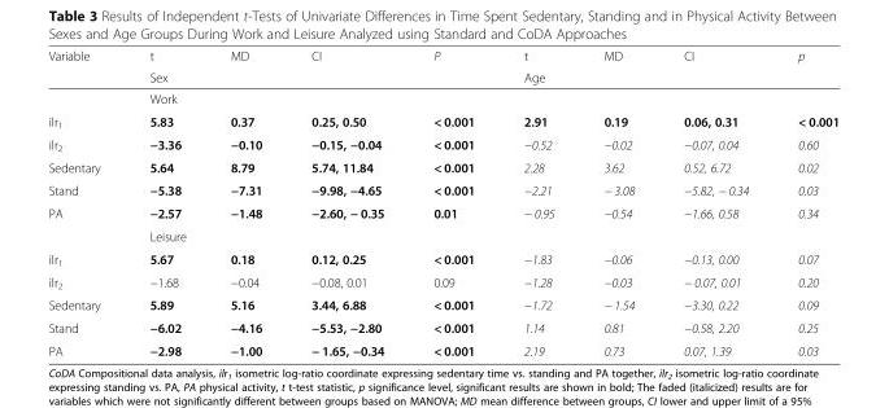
<table><thead><tr><td rowspan="2">Variable</td><td>t</td><td>MD</td><td>CI</td><td>P</td><td>t</td><td>MD</td><td>CI</td><td>p</td></tr><tr><td colspan="4">Sex</td><td colspan="4">Age</td></tr></thead><tbody><tr><td></td><td colspan="8">Work</td></tr><tr><td>ilr<sub>1</sub></td><td>5.83</td><td>0.37</td><td>0.25, 0.50</td><td>&lt; 0.001</td><td>2.91</td><td>0.19</td><td>0.06, 0.31</td><td>&lt; 0.001</td></tr><tr><td>ilr<sub>2</sub></td><td>−3.36</td><td>−0.10</td><td>−0.15, −0.04</td><td>&lt; 0.001</td><td>−0.52</td><td>−0.02</td><td>−0.07, 0.04</td><td>0.60</td></tr><tr><td>Sedentary</td><td>5.64</td><td>8.79</td><td>5.74, 11.84</td><td>&lt; 0.001</td><td>2.28</td><td>3.62</td><td>0.52, 6.72</td><td>0.02</td></tr><tr><td>Stand</td><td>−5.38</td><td>−7.31</td><td>−9.98, −4.65</td><td>&lt; 0.001</td><td>−2.21</td><td>− 3.08</td><td>−5.82, − 0.34</td><td>0.03</td></tr><tr><td rowspan="2">PA</td><td>−2.57</td><td>−1.48</td><td>−2.60, − 0.35</td><td>0.01</td><td>− 0.95</td><td>−0.54</td><td>−1.66, 0.58</td><td>0.34</td></tr><tr><td colspan="8">Leisure</td></tr><tr><td>ilr<sub>1</sub></td><td>5.67</td><td>0.18</td><td>0.12, 0.25</td><td>&lt; 0.001</td><td>−1.83</td><td>−0.06</td><td>−0.13, 0.00</td><td>0.07</td></tr><tr><td>ilr<sub>2</sub></td><td>−1.68</td><td>−0.04</td><td>−0.08, 0.01</td><td>0.09</td><td>−1.28</td><td>−0.03</td><td>− 0.07, 0.01</td><td>0.20</td></tr><tr><td>Sedentary</td><td>5.89</td><td>5.16</td><td>3.44, 6.88</td><td>&lt; 0.001</td><td>−1.72</td><td>− 1.54</td><td>−3.30, 0.22</td><td>0.09</td></tr><tr><td>Stand</td><td>−6.02</td><td>−4.16</td><td>−5.53, −2.80</td><td>&lt; 0.001</td><td>1.14</td><td>0.81</td><td>−0.58, 2.20</td><td>0.25</td></tr><tr><td>PA</td><td>−2.98</td><td>−1.00</td><td>− 1.65, −0.34</td><td>&lt; 0.001</td><td>2.19</td><td>0.73</td><td>0.07, 1.39</td><td>0.03</td></tr></tbody></table>